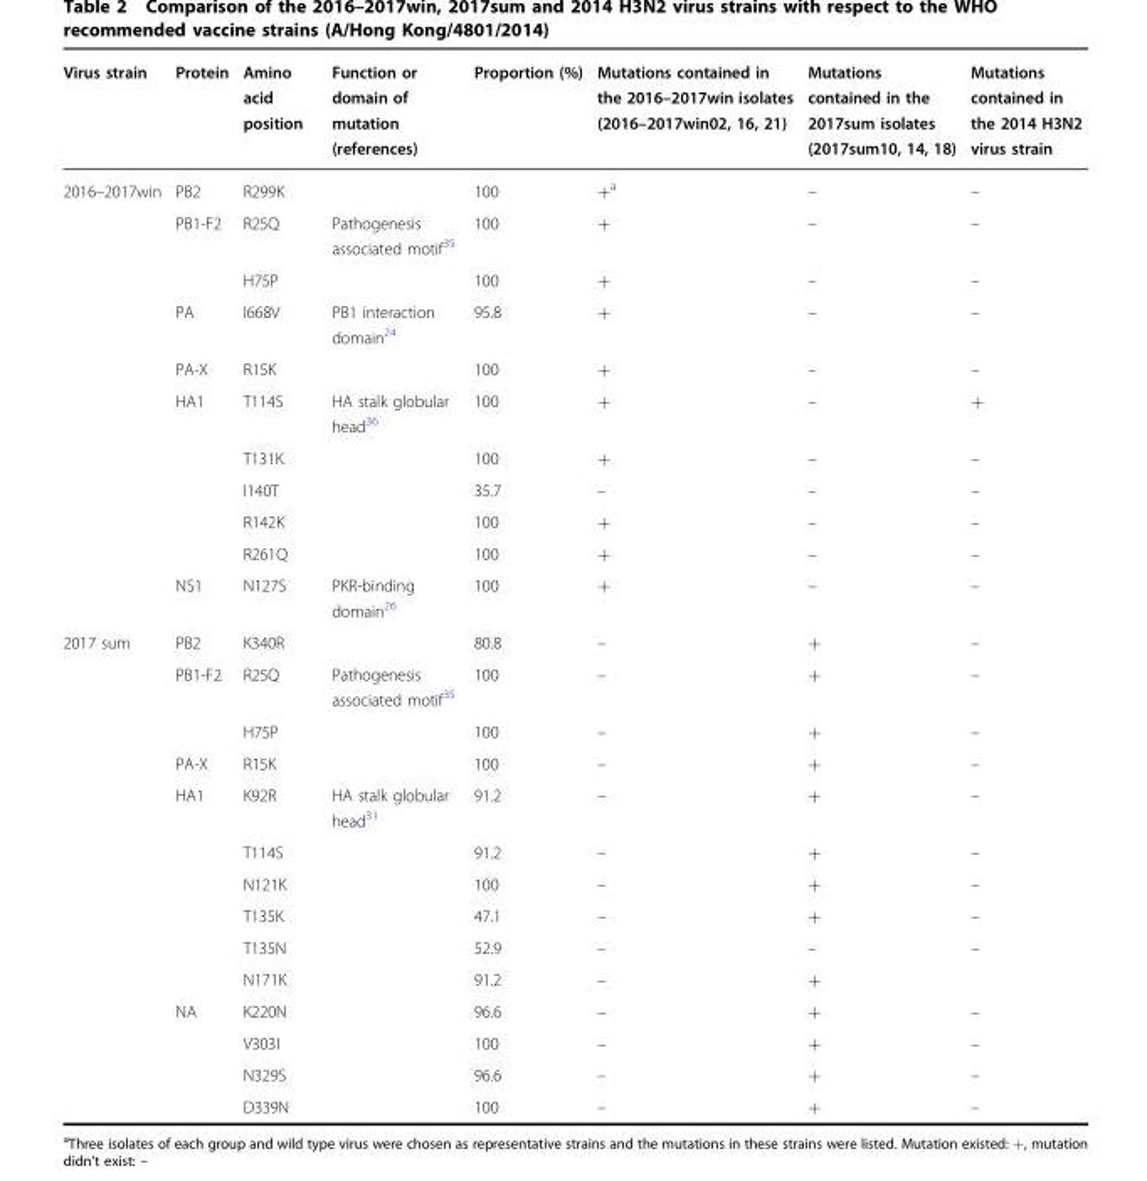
<table><thead><tr><td>Virus strain</td><td>Protein</td><td>Amino acid position</td><td>Function or domain of mutation (references)</td><td>Proportion (%)</td><td>Mutations contained in the 2016–2017win isolates (2016–2017win02, 16, 21)</td><td>Mutations contained in the 2017sum isolates (2017sum10, 14, 18)</td><td>Mutations contained in the 2014 H3N2 virus strain</td></tr></thead><tbody><tr><td rowspan="11">2016–2017win</td><td>PB2</td><td>R299K</td><td></td><td>100</td><td>+<sup>a</sup></td><td>–</td><td>–</td></tr><tr><td>PB1-F2</td><td>R25Q</td><td>Pathogenesis associated motif<sup>35</sup></td><td>100</td><td>+</td><td>–</td><td>–</td></tr><tr><td></td><td>H75P</td><td></td><td>100</td><td>+</td><td>–</td><td>–</td></tr><tr><td>PA</td><td>I668V</td><td>PB1 interaction domain<sup>24</sup></td><td>95.8</td><td>+</td><td>–</td><td>–</td></tr><tr><td>PA-X</td><td>R15K</td><td></td><td>100</td><td>+</td><td>–</td><td>–</td></tr><tr><td>HA1</td><td>T114S</td><td>HA stalk globular head<sup>36</sup></td><td>100</td><td>+</td><td>–</td><td>+</td></tr><tr><td></td><td>T131K</td><td></td><td>100</td><td>+</td><td>–</td><td>–</td></tr><tr><td></td><td>I140T</td><td></td><td>35.7</td><td>–</td><td>–</td><td>–</td></tr><tr><td></td><td>R142K</td><td></td><td>100</td><td>+</td><td>–</td><td>–</td></tr><tr><td></td><td>R261Q</td><td></td><td>100</td><td>+</td><td>–</td><td>–</td></tr><tr><td>NS1</td><td>N127S</td><td>PKR-binding domain<sup>26</sup></td><td>100</td><td>+</td><td>–</td><td>–</td></tr><tr><td rowspan="14">2017 sum</td><td>PB2</td><td>K340R</td><td></td><td>80.8</td><td>–</td><td>+</td><td>–</td></tr><tr><td>PB1-F2</td><td>R25Q</td><td>Pathogenesis associated motif<sup>35</sup></td><td>100</td><td>–</td><td>+</td><td>–</td></tr><tr><td></td><td>H75P</td><td></td><td>100</td><td>–</td><td>+</td><td>–</td></tr><tr><td>PA-X</td><td>R15K</td><td></td><td>100</td><td>–</td><td>+</td><td>–</td></tr><tr><td>HA1</td><td>K92R</td><td>HA stalk globular head<sup>31</sup></td><td>91.2</td><td>–</td><td>+</td><td>–</td></tr><tr><td></td><td>T114S</td><td></td><td>91.2</td><td>–</td><td>+</td><td>–</td></tr><tr><td></td><td>N121K</td><td></td><td>100</td><td>–</td><td>+</td><td>–</td></tr><tr><td></td><td>T135K</td><td></td><td>47.1</td><td>–</td><td>+</td><td>–</td></tr><tr><td></td><td>T135N</td><td></td><td>52.9</td><td>–</td><td>–</td><td>–</td></tr><tr><td></td><td>N171K</td><td></td><td>91.2</td><td>–</td><td>+</td><td></td></tr><tr><td>NA</td><td>K220N</td><td></td><td>96.6</td><td>–</td><td>+</td><td>–</td></tr><tr><td></td><td>V303I</td><td></td><td>100</td><td>–</td><td>+</td><td>–</td></tr><tr><td></td><td>N329S</td><td></td><td>96.6</td><td>–</td><td>+</td><td>–</td></tr><tr><td></td><td>D339N</td><td></td><td>100</td><td>–</td><td>+</td><td>–</td></tr></tbody></table>